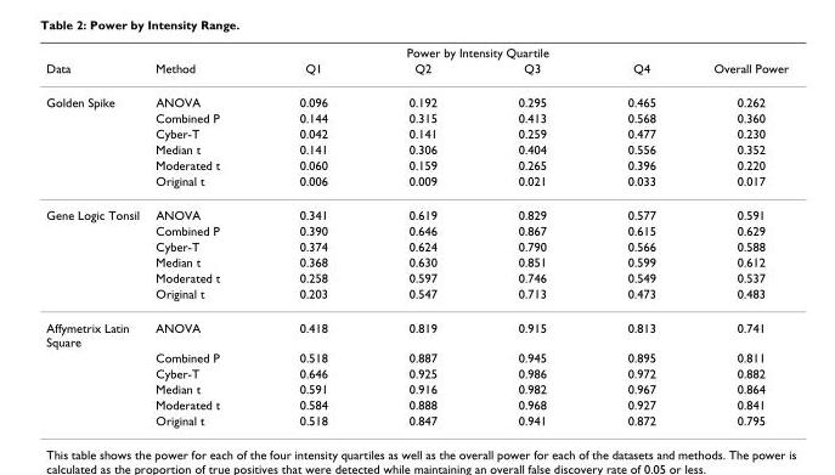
<table><thead><tr><td rowspan="2">Data</td><td rowspan="2">Method</td><td colspan="4">Power by Intensity Quartile</td><td rowspan="2">Overall Power</td></tr><tr><td>Q1</td><td>Q2</td><td>Q3</td><td>Q4</td></tr></thead><tbody><tr><td rowspan="6">Golden Spike</td><td>ANOVA</td><td>0.096</td><td>0.192</td><td>0.295</td><td>0.465</td><td>0.262</td></tr><tr><td>Combined P</td><td>0.144</td><td>0.315</td><td>0.413</td><td>0.568</td><td>0.360</td></tr><tr><td>Cyber-T</td><td>0.042</td><td>0.141</td><td>0.259</td><td>0.477</td><td>0.230</td></tr><tr><td>Median t</td><td>0.141</td><td>0.306</td><td>0.404</td><td>0.556</td><td>0.352</td></tr><tr><td>Moderated t</td><td>0.060</td><td>0.159</td><td>0.265</td><td>0.396</td><td>0.220</td></tr><tr><td>Original t</td><td>0.006</td><td>0.009</td><td>0.021</td><td>0.033</td><td>0.017</td></tr><tr><td rowspan="6">Gene Logic Tonsil</td><td>ANOVA</td><td>0.341</td><td>0.619</td><td>0.829</td><td>0.577</td><td>0.591</td></tr><tr><td>Combined P</td><td>0.390</td><td>0.646</td><td>0.867</td><td>0.615</td><td>0.629</td></tr><tr><td>Cyber-T</td><td>0.374</td><td>0.624</td><td>0.790</td><td>0.566</td><td>0.588</td></tr><tr><td>Median t</td><td>0.368</td><td>0.630</td><td>0.851</td><td>0.599</td><td>0.612</td></tr><tr><td>Moderated t</td><td>0.258</td><td>0.597</td><td>0.746</td><td>0.549</td><td>0.537</td></tr><tr><td>Original t</td><td>0.203</td><td>0.547</td><td>0.713</td><td>0.473</td><td>0.483</td></tr><tr><td rowspan="6">Affymetrix Latin Square</td><td>ANOVA</td><td>0.418</td><td>0.819</td><td>0.915</td><td>0.813</td><td>0.741</td></tr><tr><td>Combined P</td><td>0.518</td><td>0.887</td><td>0.945</td><td>0.895</td><td>0.811</td></tr><tr><td>Cyber-T</td><td>0.646</td><td>0.925</td><td>0.986</td><td>0.972</td><td>0.882</td></tr><tr><td>Median t</td><td>0.591</td><td>0.916</td><td>0.982</td><td>0.967</td><td>0.864</td></tr><tr><td>Moderated t</td><td>0.584</td><td>0.888</td><td>0.968</td><td>0.927</td><td>0.841</td></tr><tr><td>Original t</td><td>0.518</td><td>0.847</td><td>0.941</td><td>0.872</td><td>0.795</td></tr></tbody></table>